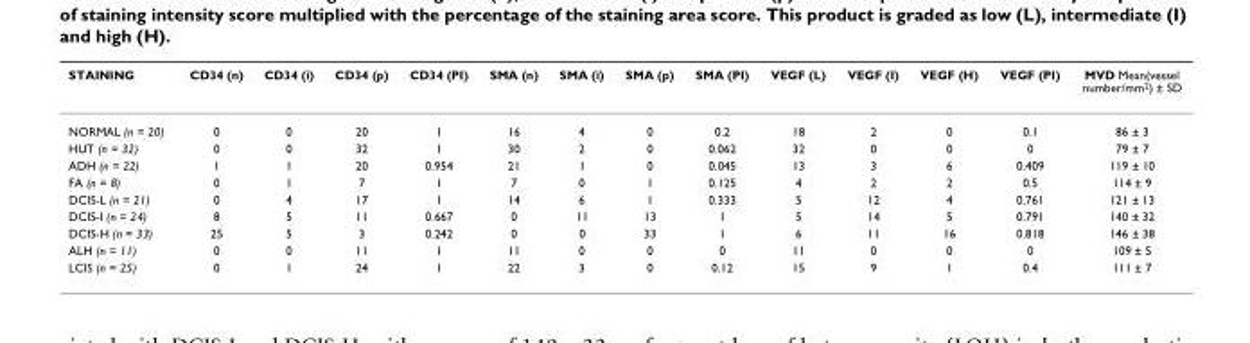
<table><thead><tr><td>STAINING</td><td>CD34 (n)</td><td>CD34 (i)</td><td>CD34 (p)</td><td>CD34 (PI)</td><td>SMA (n)</td><td>SMA (i)</td><td>SMA (p)</td><td>SMA (PI)</td><td>VEGF (L)</td><td>VEGF (I)</td><td>VEGF (H)</td><td>VEGF (PI)</td><td>MVD Mean(vessel number/mm<sup>2</sup>) ± SD</td></tr></thead><tbody><tr><td>NORMAL (n = 20)</td><td>0</td><td>0</td><td>20</td><td>1</td><td>16</td><td>4</td><td>0</td><td>0.2</td><td>18</td><td>2</td><td>0</td><td>0.1</td><td>86 ± 3</td></tr><tr><td>HUT (n = 32)</td><td>0</td><td>0</td><td>32</td><td>1</td><td>30</td><td>2</td><td>0</td><td>0.062</td><td>32</td><td>0</td><td>0</td><td>0</td><td>79 ± 7</td></tr><tr><td>ADH (n = 22)</td><td>1</td><td>1</td><td>20</td><td>0.954</td><td>21</td><td>1</td><td>0</td><td>0.045</td><td>13</td><td>3</td><td>6</td><td>0.409</td><td>119 ± 10</td></tr><tr><td>FA (n = 8)</td><td>0</td><td>1</td><td>7</td><td>1</td><td>7</td><td>0</td><td>1</td><td>0.125</td><td>4</td><td>2</td><td>2</td><td>0.5</td><td>114 ± 9</td></tr><tr><td>DCIS-L (n = 21)</td><td>0</td><td>4</td><td>17</td><td>1</td><td>14</td><td>6</td><td>1</td><td>0.333</td><td>5</td><td>12</td><td>4</td><td>0.761</td><td>121 ± 13</td></tr><tr><td>DCIS-I (n = 24)</td><td>8</td><td>5</td><td>11</td><td>0.667</td><td>0</td><td>11</td><td>13</td><td>1</td><td>5</td><td>14</td><td>5</td><td>0.791</td><td>140 ± 32</td></tr><tr><td>DCIS-H (n = 33)</td><td>25</td><td>5</td><td>3</td><td>0.242</td><td>0</td><td>0</td><td>33</td><td>1</td><td>6</td><td>11</td><td>16</td><td>0.818</td><td>146 ± 38</td></tr><tr><td>ALH (n = 11)</td><td>0</td><td>0</td><td>11</td><td>1</td><td>11</td><td>0</td><td>0</td><td>0</td><td>11</td><td>0</td><td>0</td><td>0</td><td>109 ± 5</td></tr><tr><td>LCIS (n = 25)</td><td>0</td><td>1</td><td>24</td><td>1</td><td>22</td><td>3</td><td>0</td><td>0.12</td><td>15</td><td>9</td><td>1</td><td>0.4</td><td>111 ± 7</td></tr></tbody></table>